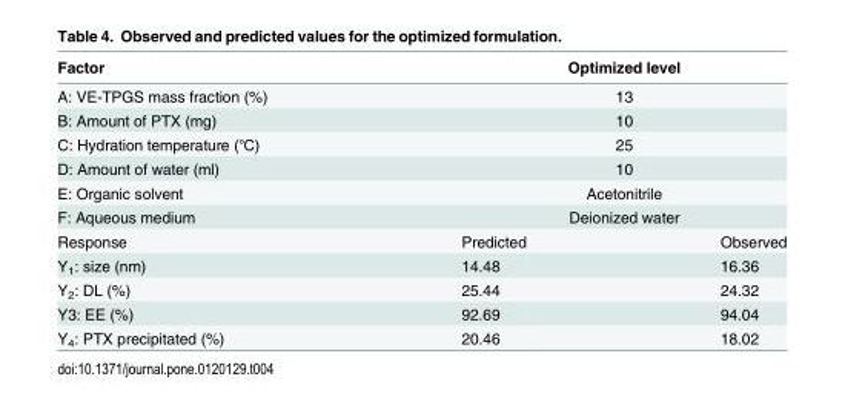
<table><thead><tr><td>Factor</td><td colspan="2">Optimized level</td></tr></thead><tbody><tr><td>A: VE-TPGS mass fraction (%)</td><td colspan="2">13</td></tr><tr><td>B: Amount of PTX (mg)</td><td colspan="2">10</td></tr><tr><td>C: Hydration temperature (℃)</td><td colspan="2">25</td></tr><tr><td>D: Amount of water (ml)</td><td colspan="2">10</td></tr><tr><td>E: Organic solvent</td><td colspan="2">Acetonitrile</td></tr><tr><td>F: Aqueous medium</td><td colspan="2">Deionized water</td></tr><tr><td>Response</td><td>Predicted</td><td>Observed</td></tr><tr><td>Y<sub>1</sub>: size (nm)</td><td>14.48</td><td>16.36</td></tr><tr><td>Y<sub>2</sub>: DL (%)</td><td>25.44</td><td>24.32</td></tr><tr><td>Y3: EE (%)</td><td>92.69</td><td>94.04</td></tr><tr><td>Y<sub>4</sub>: PTX precipitated (%)</td><td>20.46</td><td>18.02</td></tr></tbody></table>